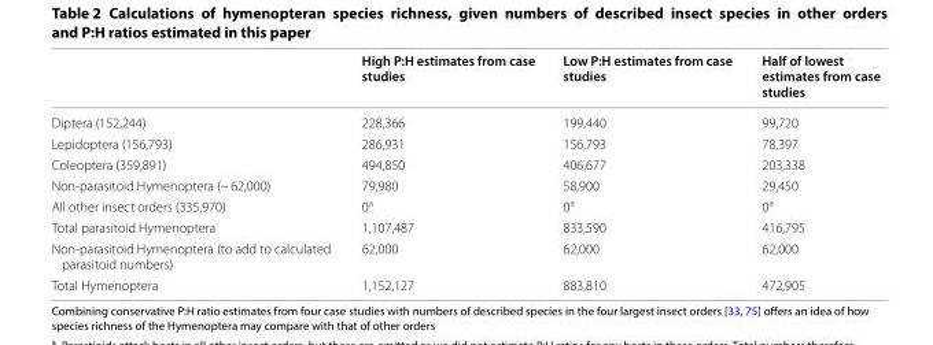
<table><thead><tr><td></td><td>High P:H estimates from case studies</td><td>Low P:H estimates from case studies</td><td>Half of lowest estimates from case studies</td></tr></thead><tbody><tr><td>Diptera (152,244)</td><td>228,366</td><td>199,440</td><td>99,720</td></tr><tr><td>Lepidoptera (156,793)</td><td>286,931</td><td>156,793</td><td>78,397</td></tr><tr><td>Coleoptera (359,891)</td><td>494,850</td><td>406,677</td><td>203,338</td></tr><tr><td>Non-parasitoid Hymenoptera (~ 62,000)</td><td>79,980</td><td>58,900</td><td>29,450</td></tr><tr><td>All other insect orders (335,970)</td><td>0<sup>a</sup></td><td>0<sup>a</sup></td><td>0<sup>a</sup></td></tr><tr><td>Total parasitoid Hymenoptera</td><td>1,107,487</td><td>833,590</td><td>416,795</td></tr><tr><td>Non-parasitoid Hymenoptera (to add to calculated parasitoid numbers)</td><td>62,000</td><td>62,000</td><td>62,000</td></tr><tr><td>Total Hymenoptera</td><td>1,152,127</td><td>883,810</td><td>472,905</td></tr></tbody></table>